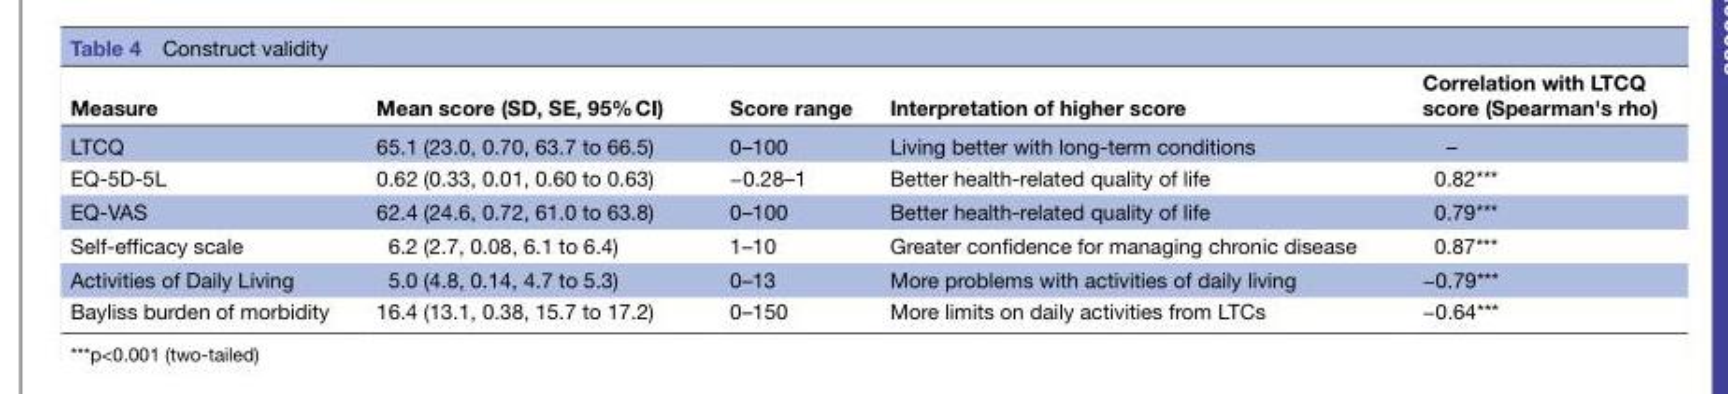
<table><thead><tr><td>Measure</td><td>Mean score (SD, SE, 95% CI)</td><td>Score range</td><td>Interpretation of higher score</td><td>Correlation with LTCQ score (Spearman&#x27;s rho)</td></tr></thead><tbody><tr><td>LTCQ</td><td>65.1 (23.0, 0.70, 63.7 to 66.5)</td><td>0–100</td><td>Living better with long-term conditions</td><td>–</td></tr><tr><td>EQ-5D-5L</td><td>0.62 (0.33, 0.01, 0.60 to 0.63)</td><td>−0.28–1</td><td>Better health-related quality of life</td><td>0.82***</td></tr><tr><td>EQ-VAS</td><td>62.4 (24.6, 0.72, 61.0 to 63.8)</td><td>0–100</td><td>Better health-related quality of life</td><td>0.79***</td></tr><tr><td>Self-efficacy scale</td><td>6.2 (2.7, 0.08, 6.1 to 6.4)</td><td>1–10</td><td>Greater confidence for managing chronic disease</td><td>0.87***</td></tr><tr><td>Activities of Daily Living</td><td>5.0 (4.8, 0.14, 4.7 to 5.3)</td><td>0–13</td><td>More problems with activities of daily living</td><td>−0.79***</td></tr><tr><td>Bayliss burden of morbidity</td><td>16.4 (13.1, 0.38, 15.7 to 17.2)</td><td>0–150</td><td>More limits on daily activities from LTCs</td><td>−0.64***</td></tr></tbody></table>